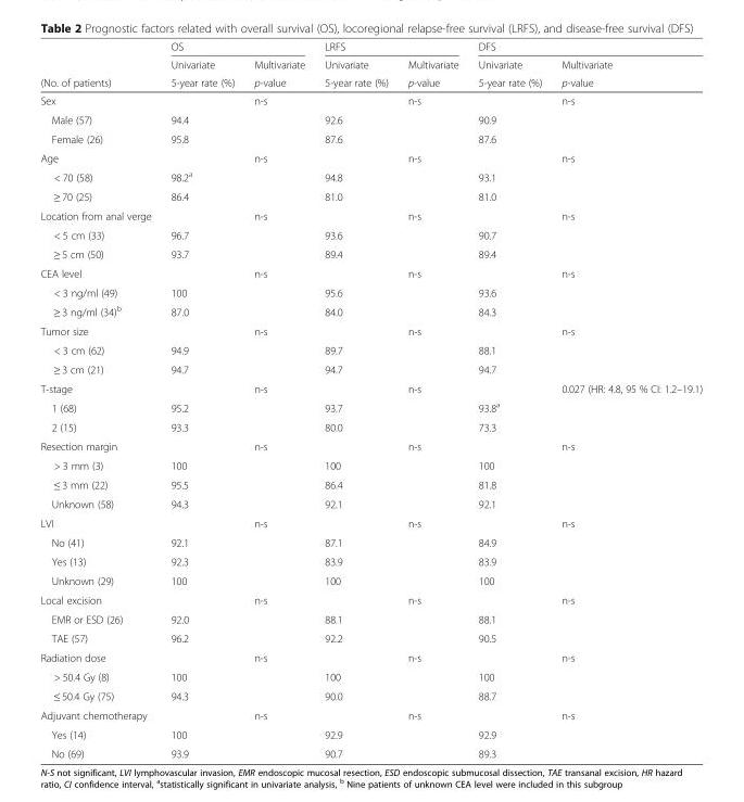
<table><thead><tr><td rowspan="3">(No. of patients)</td><td colspan="2">OS</td><td colspan="2">LRFS</td><td colspan="2">DFS</td></tr><tr><td rowspan="2">Univariate 5-year rate (%)</td><td rowspan="2">Multivariate p-value</td><td rowspan="2">Univariate 5-year rate (%)</td><td rowspan="2">Multivariate p-value</td><td rowspan="2">Univariate 5-year rate (%)</td><td rowspan="2">Multivariate p-value</td></tr><tr></tr></thead><tbody><tr><td>Sex</td><td></td><td>n-s</td><td></td><td>n-s</td><td></td><td>n-s</td></tr><tr><td>Male (57)</td><td>94.4</td><td></td><td>92.6</td><td></td><td>90.9</td><td></td></tr><tr><td>Female (26)</td><td>95.8</td><td></td><td>87.6</td><td></td><td>87.6</td><td></td></tr><tr><td>Age</td><td></td><td>n-s</td><td></td><td>n-s</td><td></td><td>n-s</td></tr><tr><td>&lt; 70 (58)</td><td>98.2<sup>a</sup></td><td></td><td>94.8</td><td></td><td>93.1</td><td></td></tr><tr><td>≥ 70 (25)</td><td>86.4</td><td></td><td>81.0</td><td></td><td>81.0</td><td></td></tr><tr><td>Location from anal verge</td><td></td><td>n-s</td><td></td><td>n-s</td><td></td><td>n-s</td></tr><tr><td>&lt; 5 cm (33)</td><td>96.7</td><td></td><td>93.6</td><td></td><td>90.7</td><td></td></tr><tr><td>≥ 5 cm (50)</td><td>93.7</td><td></td><td>89.4</td><td></td><td>89.4</td><td></td></tr><tr><td>CEA level</td><td></td><td>n-s</td><td></td><td>n-s</td><td></td><td>n-s</td></tr><tr><td>&lt; 3 ng/ml (49)</td><td>100</td><td></td><td>95.6</td><td></td><td>93.6</td><td></td></tr><tr><td>≥ 3 ng/ml (34)<sup>b</sup></td><td>87.0</td><td></td><td>84.0</td><td></td><td>84.3</td><td></td></tr><tr><td>Tumor size</td><td></td><td>n-s</td><td></td><td>n-s</td><td></td><td>n-s</td></tr><tr><td>&lt; 3 cm (62)</td><td>94.9</td><td></td><td>89.7</td><td></td><td>88.1</td><td></td></tr><tr><td>≥ 3 cm (21)</td><td>94.7</td><td></td><td>94.7</td><td></td><td>94.7</td><td></td></tr><tr><td>T-stage</td><td></td><td>n-s</td><td></td><td>n-s</td><td></td><td>0.027 (HR: 4.8, 95 % CI: 1.2–19.1)</td></tr><tr><td>1 (68)</td><td>95.2</td><td></td><td>93.7</td><td></td><td>93.8<sup>a</sup></td><td></td></tr><tr><td>2 (15)</td><td>93.3</td><td></td><td>80.0</td><td></td><td>73.3</td><td></td></tr><tr><td>Resection margin</td><td></td><td>n-s</td><td></td><td>n-s</td><td></td><td>n-s</td></tr><tr><td>&gt; 3 mm (3)</td><td>100</td><td></td><td>100</td><td></td><td>100</td><td></td></tr><tr><td>≤ 3 mm (22)</td><td>95.5</td><td></td><td>86.4</td><td></td><td>81.8</td><td></td></tr><tr><td>Unknown (58)</td><td>94.3</td><td></td><td>92.1</td><td></td><td>92.1</td><td></td></tr><tr><td>LVI</td><td></td><td>n-s</td><td></td><td>n-s</td><td></td><td>n-s</td></tr><tr><td>No (41)</td><td>92.1</td><td></td><td>87.1</td><td></td><td>84.9</td><td></td></tr><tr><td>Yes (13)</td><td>92.3</td><td></td><td>83.9</td><td></td><td>83.9</td><td></td></tr><tr><td>Unknown (29)</td><td>100</td><td></td><td>100</td><td></td><td>100</td><td></td></tr><tr><td>Local excision</td><td></td><td>n-s</td><td></td><td>n-s</td><td></td><td>n-s</td></tr><tr><td>EMR or ESD (26)</td><td>92.0</td><td></td><td>88.1</td><td></td><td>88.1</td><td></td></tr><tr><td>TAE (57)</td><td>96.2</td><td></td><td>92.2</td><td></td><td>90.5</td><td></td></tr><tr><td>Radiation dose</td><td></td><td>n-s</td><td></td><td>n-s</td><td></td><td>n-s</td></tr><tr><td>&gt; 50.4 Gy (8)</td><td>100</td><td></td><td>100</td><td></td><td>100</td><td></td></tr><tr><td>≤ 50.4 Gy (75)</td><td>94.3</td><td></td><td>90.0</td><td></td><td>88.7</td><td></td></tr><tr><td>Adjuvant chemotherapy</td><td></td><td>n-s</td><td></td><td>n-s</td><td></td><td>n-s</td></tr><tr><td>Yes (14)</td><td>100</td><td></td><td>92.9</td><td></td><td>92.9</td><td></td></tr><tr><td>No (69)</td><td>93.9</td><td></td><td>90.7</td><td></td><td>89.3</td><td></td></tr></tbody></table>